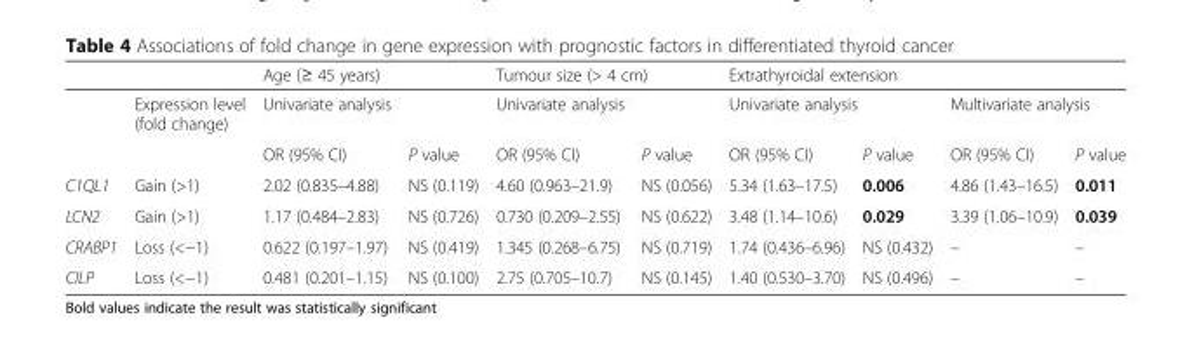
<table><thead><tr><td rowspan="3"></td><td rowspan="3">Expression level (fold change)</td><td colspan="2">Age (≥ 45 years)</td><td colspan="2">Tumour size (&gt; 4 cm)</td><td colspan="4">Extrathyroidal extension</td></tr><tr><td rowspan="2">Univariate analysis OR (95% CI)</td><td rowspan="2">P value</td><td rowspan="2">Univariate analysis OR (95% CI)</td><td rowspan="2">P value</td><td colspan="2">Univariate analysis</td><td colspan="2">Multivariate analysis</td></tr><tr><td>OR (95% CI)</td><td>P value</td><td>OR (95% CI)</td><td>P value</td></tr></thead><tbody><tr><td>C1QL1</td><td>Gain (&gt;1)</td><td>2.02 (0.835–4.88)</td><td>NS (0.119)</td><td>4.60 (0.963–21.9)</td><td>NS (0.056)</td><td>5.34 (1.63–17.5)</td><td>0.006</td><td>4.86 (1.43–16.5)</td><td>0.011</td></tr><tr><td>LCN2</td><td>Gain (&gt;1)</td><td>1.17 (0.484–2.83)</td><td>NS (0.726)</td><td>0.730 (0.209–2.55)</td><td>NS (0.622)</td><td>3.48 (1.14–10.6)</td><td>0.029</td><td>3.39 (1.06–10.9)</td><td>0.039</td></tr><tr><td>CRABP1</td><td>Loss (&lt;−1)</td><td>0.622 (0.197–1.97)</td><td>NS (0.419)</td><td>1.345 (0.268–6.75)</td><td>NS (0.719)</td><td>1.74 (0.436–6.96)</td><td>NS (0.432)</td><td>–</td><td>–</td></tr><tr><td>CILP</td><td>Loss (&lt;−1)</td><td>0.481 (0.201–1.15)</td><td>NS (0.100)</td><td>2.75 (0.705–10.7)</td><td>NS (0.145)</td><td>1.40 (0.530–3.70)</td><td>NS (0.496)</td><td>–</td><td>–</td></tr></tbody></table>